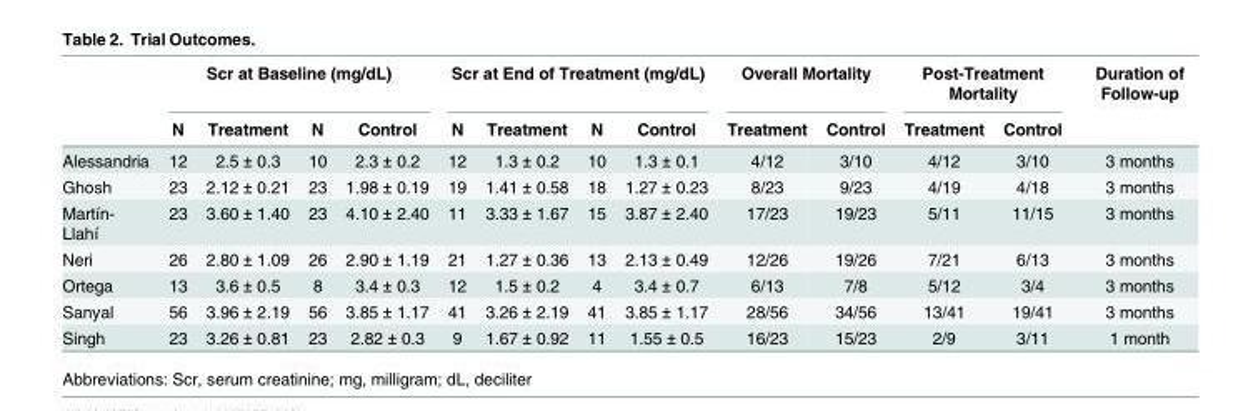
<table><thead><tr><td rowspan="2"></td><td colspan="4">Scr at Baseline (mg/dL)</td><td colspan="4">Scr at End of Treatment (mg/dL)</td><td colspan="2">Overall Mortality</td><td colspan="2">Post-Treatment Mortality</td><td rowspan="2">Duration of Follow-up</td></tr><tr><td>N</td><td>Treatment</td><td>N</td><td>Control</td><td>N</td><td>Treatment</td><td>N</td><td>Control</td><td>Treatment</td><td>Control</td><td>Treatment</td><td>Control</td></tr></thead><tbody><tr><td>Alessandria</td><td>12</td><td>2.5 ± 0.3</td><td>10</td><td>2.3 ± 0.2</td><td>12</td><td>1.3 ± 0.2</td><td>10</td><td>1.3 ± 0.1</td><td>4/12</td><td>3/10</td><td>4/12</td><td>3/10</td><td>3 months</td></tr><tr><td>Ghosh</td><td>23</td><td>2.12 ± 0.21</td><td>23</td><td>1.98 ± 0.19</td><td>19</td><td>1.41 ± 0.58</td><td>18</td><td>1.27 ± 0.23</td><td>8/23</td><td>9/23</td><td>4/19</td><td>4/18</td><td>3 months</td></tr><tr><td>Martín- Llahí</td><td>23</td><td>3.60 ± 1.40</td><td>23</td><td>4.10 ± 2.40</td><td>11</td><td>3.33 ± 1.67</td><td>15</td><td>3.87 ± 2.40</td><td>17/23</td><td>19/23</td><td>5/11</td><td>11/15</td><td>3 months</td></tr><tr><td>Neri</td><td>26</td><td>2.80 ± 1.09</td><td>26</td><td>2.90 ± 1.19</td><td>21</td><td>1.27 ± 0.36</td><td>13</td><td>2.13 ± 0.49</td><td>12/26</td><td>19/26</td><td>7/21</td><td>6/13</td><td>3 months</td></tr><tr><td>Ortega</td><td>13</td><td>3.6 ± 0.5</td><td>8</td><td>3.4 ± 0.3</td><td>12</td><td>1.5 ± 0.2</td><td>4</td><td>3.4 ± 0.7</td><td>6/13</td><td>7/8</td><td>5/12</td><td>3/4</td><td>3 months</td></tr><tr><td>Sanyal</td><td>56</td><td>3.96 ± 2.19</td><td>56</td><td>3.85 ± 1.17</td><td>41</td><td>3.26 ± 2.19</td><td>41</td><td>3.85 ± 1.17</td><td>28/56</td><td>34/56</td><td>13/41</td><td>19/41</td><td>3 months</td></tr><tr><td>Singh</td><td>23</td><td>3.26 ± 0.81</td><td>23</td><td>2.82 ± 0.3</td><td>9</td><td>1.67 ± 0.92</td><td>11</td><td>1.55 ± 0.5</td><td>16/23</td><td>15/23</td><td>2/9</td><td>3/11</td><td>1 month</td></tr></tbody></table>